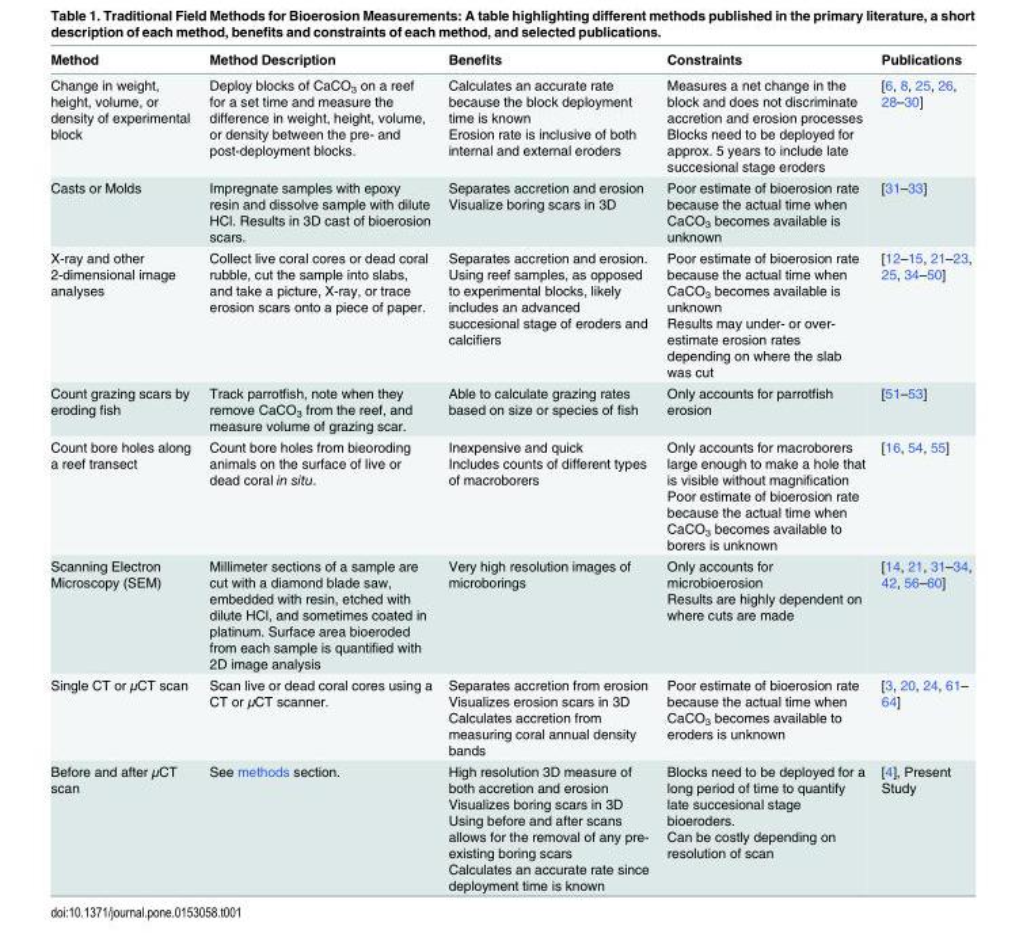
<table><thead><tr><td>Method</td><td>Method Description</td><td>Benefits</td><td>Constraints</td><td>Publications</td></tr></thead><tbody><tr><td>Change in weight, height, volume, or density of experimental block</td><td>Deploy blocks of CaCO<sub>3</sub> on a reef for a set time and measure the difference in weight, height, volume, or density between the pre- and post-deployment blocks.</td><td>Calculates an accurate rate because the block deployment time is known Erosion rate is inclusive of both internal and external eroders</td><td>Measures a net change in the block and does not discriminate accretion and erosion processes Blocks need to be deployed for approx. 5 years to include late succesional stage eroders</td><td>[6, 8, 25, 26, 28–30]</td></tr><tr><td>Casts or Molds</td><td>Impregnate samples with epoxy resin and dissolve sample with dilute HCl. Results in 3D cast of bioerosion scars.</td><td>Separates accretion and erosion Visualize boring scars in 3D</td><td>Poor estimate of bioerosion rate because the actual time when CaCO<sub>3</sub> becomes available is unknown</td><td>[31–33]</td></tr><tr><td>X-ray and other 2-dimensional image analyses</td><td>Collect live coral cores or dead coral rubble, cut the sample into slabs, and take a picture, X-ray, or trace erosion scars onto a piece of paper.</td><td>Separates accretion and erosion. Using reef samples, as opposed to experimental blocks, likely includes an advanced succesional stage of eroders and calcifiers</td><td>Poor estimate of bioerosion rate because the actual time when CaCO<sub>3</sub> becomes available is unknown Results may under- or over- estimate erosion rates depending on where the slab was cut</td><td>[12–15, 21–23, 25, 34–50]</td></tr><tr><td>Count grazing scars by eroding fish</td><td>Track parrotfish, note when they remove CaCO<sub>3</sub> from the reef, and measure volume of grazing scar.</td><td>Able to calculate grazing rates based on size or species of fish</td><td>Only accounts for parrotfish erosion</td><td>[51–53]</td></tr><tr><td>Count bore holes along a reef transect</td><td>Count bore holes from bieoroding animals on the surface of live or dead coral in situ.</td><td>Inexpensive and quick Includes counts of different types of macroborers</td><td>Only accounts for macroborers large enough to make a hole that is visible without magnification Poor estimate of bioerosion rate because the actual time when CaCO<sub>3</sub> becomes available to borers is unknown</td><td>[16, 54, 55]</td></tr><tr><td>Scanning Electron Microscopy (SEM)</td><td>Millimeter sections of a sample are cut with a diamond blade saw, embedded with resin, etched with dilute HCl, and sometimes coated in platinum. Surface area bioeroded from each sample is quantified with 2D image analysis</td><td>Very high resolution images of microborings</td><td>Only accounts for microbioerosion Results are highly dependent on where cuts are made</td><td>[14, 21, 31–34, 42, 56–60]</td></tr><tr><td>Single CT or μCT scan</td><td>Scan live or dead coral cores using a CT or μCT scanner.</td><td>Separates accretion from erosion Visualizes erosion scars in 3D Calculates accretion from measuring coral annual density bands</td><td>Poor estimate of bioerosion rate because the actual time when CaCO<sub>3</sub> becomes available to eroders is unknown</td><td>[3, 20, 24, 61– 64]</td></tr><tr><td>Before and after μCT scan</td><td>See methods section.</td><td>High resolution 3D measure of both accretion and erosion Visualizes boring scars in 3D Using before and after scans allows for the removal of any pre- existing boring scars Calculates an accurate rate since deployment time is known</td><td>Blocks need to be deployed for a long period of time to quantify late succesional stage bioeroders. Can be costly depending on resolution of scan</td><td>[4], Present Study</td></tr></tbody></table>